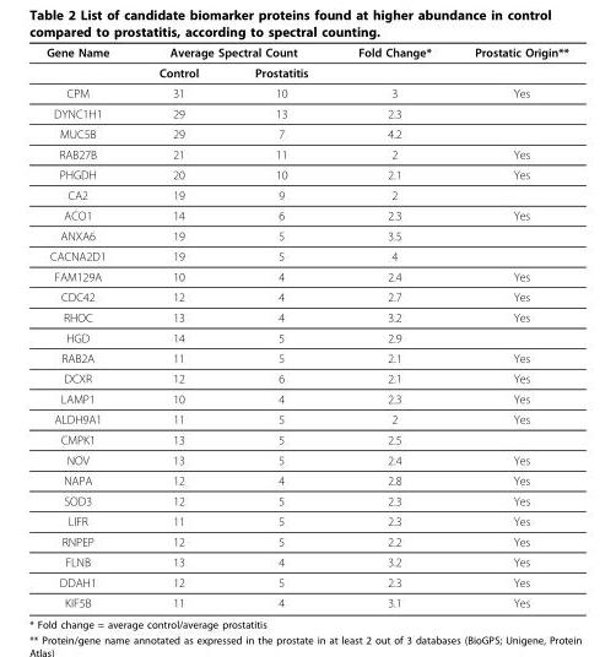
<table><thead><tr><td rowspan="2">Gene Name</td><td colspan="2">Average Spectral Count</td><td rowspan="2">Fold Change*</td><td rowspan="2">Prostatic Origin**</td></tr><tr><td>Control</td><td>Prostatitis</td></tr></thead><tbody><tr><td>CPM</td><td>31</td><td>10</td><td>3</td><td>Yes</td></tr><tr><td>DYNC1H1</td><td>29</td><td>13</td><td>2.3</td><td></td></tr><tr><td>MUC5B</td><td>29</td><td>7</td><td>4.2</td><td></td></tr><tr><td>RAB27B</td><td>21</td><td>11</td><td>2</td><td>Yes</td></tr><tr><td>PHGDH</td><td>20</td><td>10</td><td>2.1</td><td>Yes</td></tr><tr><td>CA2</td><td>19</td><td>9</td><td>2</td><td></td></tr><tr><td>ACO1</td><td>14</td><td>6</td><td>2.3</td><td>Yes</td></tr><tr><td>ANXA6</td><td>19</td><td>5</td><td>3.5</td><td></td></tr><tr><td>CACNA2D1</td><td>19</td><td>5</td><td>4</td><td></td></tr><tr><td>FAM129A</td><td>10</td><td>4</td><td>2.4</td><td>Yes</td></tr><tr><td>CDC42</td><td>12</td><td>4</td><td>2.7</td><td>Yes</td></tr><tr><td>RHOC</td><td>13</td><td>4</td><td>3.2</td><td>Yes</td></tr><tr><td>HGD</td><td>14</td><td>5</td><td>2.9</td><td></td></tr><tr><td>RAB2A</td><td>11</td><td>5</td><td>2.1</td><td>Yes</td></tr><tr><td>DCXR</td><td>12</td><td>6</td><td>2.1</td><td>Yes</td></tr><tr><td>LAMP1</td><td>10</td><td>4</td><td>2.3</td><td>Yes</td></tr><tr><td>ALDH9A1</td><td>11</td><td>5</td><td>2</td><td>Yes</td></tr><tr><td>CMPK1</td><td>13</td><td>5</td><td>2.5</td><td></td></tr><tr><td>NOV</td><td>13</td><td>5</td><td>2.4</td><td>Yes</td></tr><tr><td>NAPA</td><td>12</td><td>4</td><td>2.8</td><td>Yes</td></tr><tr><td>SOD3</td><td>12</td><td>5</td><td>2.3</td><td>Yes</td></tr><tr><td>LIFR</td><td>11</td><td>5</td><td>2.3</td><td>Yes</td></tr><tr><td>RNPEP</td><td>12</td><td>5</td><td>2.2</td><td>Yes</td></tr><tr><td>FLNB</td><td>13</td><td>4</td><td>3.2</td><td>Yes</td></tr><tr><td>DDAH1</td><td>12</td><td>5</td><td>2.3</td><td>Yes</td></tr><tr><td>KIF5B</td><td>11</td><td>4</td><td>3.1</td><td>Yes</td></tr></tbody></table>